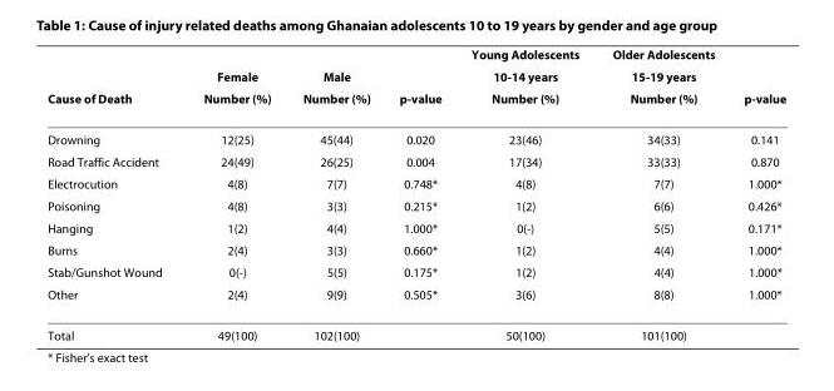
<table><thead><tr><td rowspan="3">Cause of Death</td><td rowspan="3">Female Number (%)</td><td rowspan="3">Male Number (%)</td><td rowspan="3">p-value</td><td rowspan="3">Young Adolescents 10-14 years Number (%)</td><td rowspan="3">Older Adolescents 15-19 years Number (%)</td><td rowspan="3">p-value</td></tr><tr></tr><tr></tr></thead><tbody><tr><td>Drowning</td><td>12(25)</td><td>45(44)</td><td>0.020</td><td>23(46)</td><td>34(33)</td><td>0.141</td></tr><tr><td>Road Traffic Accident</td><td>24(49)</td><td>26(25)</td><td>0.004</td><td>17(34)</td><td>33(33)</td><td>0.870</td></tr><tr><td>Electrocution</td><td>4(8)</td><td>7(7)</td><td>0.748*</td><td>4(8)</td><td>7(7)</td><td>1.000*</td></tr><tr><td>Poisoning</td><td>4(8)</td><td>3(3)</td><td>0.215*</td><td>1(2)</td><td>6(6)</td><td>0.426*</td></tr><tr><td>Hanging</td><td>1(2)</td><td>4(4)</td><td>1.000*</td><td>0(-)</td><td>5(5)</td><td>0.171*</td></tr><tr><td>Burns</td><td>2(4)</td><td>3(3)</td><td>0.660*</td><td>1(2)</td><td>4(4)</td><td>1.000*</td></tr><tr><td>Stab/Gunshot Wound</td><td>0(-)</td><td>5(5)</td><td>0.175*</td><td>1(2)</td><td>4(4)</td><td>1.000*</td></tr><tr><td>Other</td><td>2(4)</td><td>9(9)</td><td>0.505*</td><td>3(6)</td><td>8(8)</td><td>1.000*</td></tr><tr><td>Total</td><td>49(100)</td><td>102(100)</td><td></td><td>50(100)</td><td>101(100)</td><td></td></tr></tbody></table>